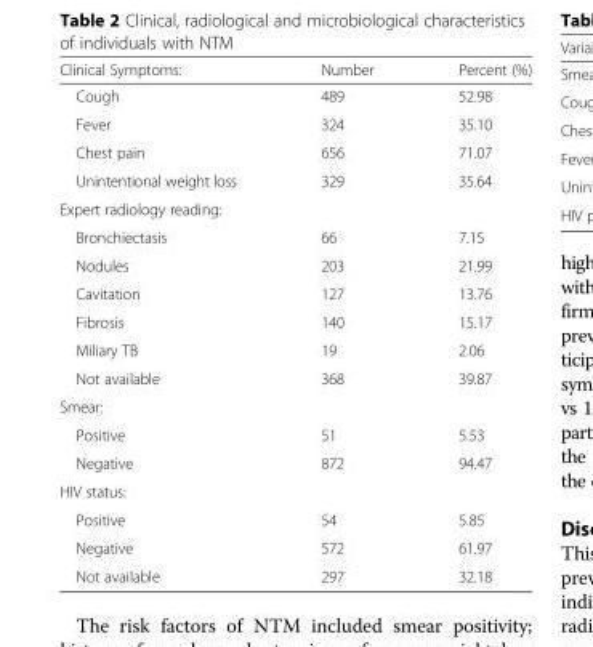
<table><thead><tr><td>Clinical Symptoms:</td><td>Number</td><td>Percent (%)</td></tr></thead><tbody><tr><td>Cough</td><td>489</td><td>52.98</td></tr><tr><td>Fever</td><td>324</td><td>35.10</td></tr><tr><td>Chest pain</td><td>656</td><td>71.07</td></tr><tr><td>Unintentional weight loss</td><td>329</td><td>35.64</td></tr><tr><td colspan="3">Expert radiology reading:</td></tr><tr><td>Bronchiectasis</td><td>66</td><td>7.15</td></tr><tr><td>Nodules</td><td>203</td><td>21.99</td></tr><tr><td>Cavitation</td><td>127</td><td>13.76</td></tr><tr><td>Fibrosis</td><td>140</td><td>15.17</td></tr><tr><td>Miliary TB</td><td>19</td><td>2.06</td></tr><tr><td>Not available</td><td>368</td><td>39.87</td></tr><tr><td colspan="3">Smear:</td></tr><tr><td>Positive</td><td>51</td><td>5.53</td></tr><tr><td>Negative</td><td>872</td><td>94.47</td></tr><tr><td colspan="3">HIV status:</td></tr><tr><td>Positive</td><td>54</td><td>5.85</td></tr><tr><td>Negative</td><td>572</td><td>61.97</td></tr><tr><td>Not available</td><td>297</td><td>32.18</td></tr></tbody></table>